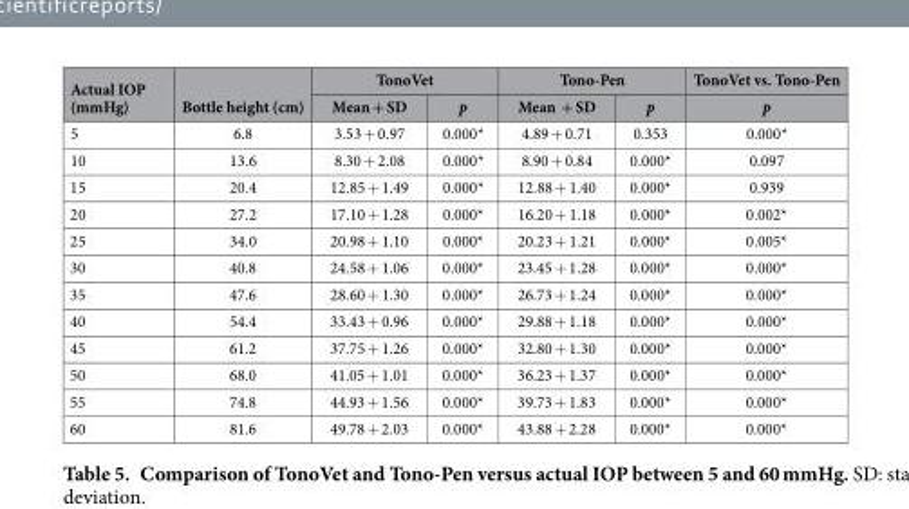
<table><thead><tr><td rowspan="2">Actual IOP (mmHg)</td><td rowspan="2">Bottle height (cm)</td><td colspan="2">TonoVet</td><td colspan="2">Tono-Pen</td><td rowspan="2">TonoVet vs. Tono-Pen p</td></tr><tr><td>Mean + SD</td><td>p</td><td>Mean + SD</td><td>p</td></tr></thead><tbody><tr><td>5</td><td>6.8</td><td>3.53 + 0.97</td><td>0.000*</td><td>4.89 + 0.71</td><td>0.353</td><td>0.000*</td></tr><tr><td>10</td><td>13.6</td><td>8.30 + 2.08</td><td>0.000*</td><td>8.90 + 0.84</td><td>0.000*</td><td>0.097</td></tr><tr><td>15</td><td>20.4</td><td>12.85 + 1.49</td><td>0.000*</td><td>12.88 + 1.40</td><td>0.000*</td><td>0.939</td></tr><tr><td>20</td><td>27.2</td><td>17.10 + 1.28</td><td>0.000*</td><td>16.20 + 1.18</td><td>0.000*</td><td>0.002*</td></tr><tr><td>25</td><td>34.0</td><td>20.98 + 1.10</td><td>0.000*</td><td>20.23 + 1.21</td><td>0.000*</td><td>0.005*</td></tr><tr><td>30</td><td>40.8</td><td>24.58 + 1.06</td><td>0.000*</td><td>23.45 + 1.28</td><td>0.000*</td><td>0.000*</td></tr><tr><td>35</td><td>47.6</td><td>28.60 + 1.30</td><td>0.000*</td><td>26.73 + 1.24</td><td>0.000*</td><td>0.000*</td></tr><tr><td>40</td><td>54.4</td><td>33.43 + 0.96</td><td>0.000*</td><td>29.88 + 1.18</td><td>0.000*</td><td>0.000*</td></tr><tr><td>45</td><td>61.2</td><td>37.75 + 1.26</td><td>0.000*</td><td>32.80 + 1.30</td><td>0.000*</td><td>0.000*</td></tr><tr><td>50</td><td>68.0</td><td>41.05 + 1.01</td><td>0.000*</td><td>36.23 + 1.37</td><td>0.000*</td><td>0.000*</td></tr><tr><td>55</td><td>74.8</td><td>44.93 + 1.56</td><td>0.000*</td><td>39.73 + 1.83</td><td>0.000*</td><td>0.000*</td></tr><tr><td>60</td><td>81.6</td><td>49.78 + 2.03</td><td>0.000*</td><td>43.88 + 2.28</td><td>0.000*</td><td>0.000*</td></tr></tbody></table>